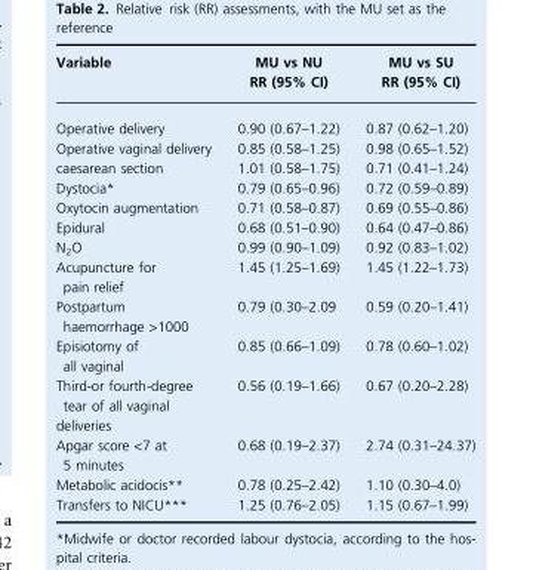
<table><thead><tr><td>Variable</td><td>MU vs NU RR (95% CI)</td><td>MU vs SU RR (95% CI)</td></tr></thead><tbody><tr><td>Operative delivery</td><td>0.90 (0.67–1.22)</td><td>0.87 (0.62–1.20)</td></tr><tr><td>Operative vaginal delivery</td><td>0.85 (0.58–1.25)</td><td>0.98 (0.65–1.52)</td></tr><tr><td>caesarean section</td><td>1.01 (0.58–1.75)</td><td>0.71 (0.41–1.24)</td></tr><tr><td>Dystocia*</td><td>0.79 (0.65–0.96)</td><td>0.72 (0.59–0.89)</td></tr><tr><td>Oxytocin augmentation</td><td>0.71 (0.58–0.87)</td><td>0.69 (0.55–0.86)</td></tr><tr><td>Epidural</td><td>0.68 (0.51–0.90)</td><td>0.64 (0.47–0.86)</td></tr><tr><td>N<sub>2</sub>O</td><td>0.99 (0.90–1.09)</td><td>0.92 (0.83–1.02)</td></tr><tr><td>Acupuncture for pain relief</td><td>1.45 (1.25–1.69)</td><td>1.45 (1.22–1.73)</td></tr><tr><td>Postpartum haemorrhage &gt;1000</td><td>0.79 (0.30–2.09</td><td>0.59 (0.20–1.41)</td></tr><tr><td>Episiotomy of all vaginal</td><td>0.85 (0.66–1.09)</td><td>0.78 (0.60–1.02)</td></tr><tr><td>Third-or fourth-degree tear of all vaginal deliveries</td><td>0.56 (0.19–1.66)</td><td>0.67 (0.20–2.28)</td></tr><tr><td>Apgar score &lt;7 at 5 minutes</td><td>0.68 (0.19–2.37)</td><td>2.74 (0.31–24.37)</td></tr><tr><td>Metabolic acidocis**</td><td>0.78 (0.25–2.42)</td><td>1.10 (0.30–4.0)</td></tr><tr><td>Transfers to NICU***</td><td>1.25 (0.76–2.05)</td><td>1.15 (0.67–1.99)</td></tr></tbody></table>